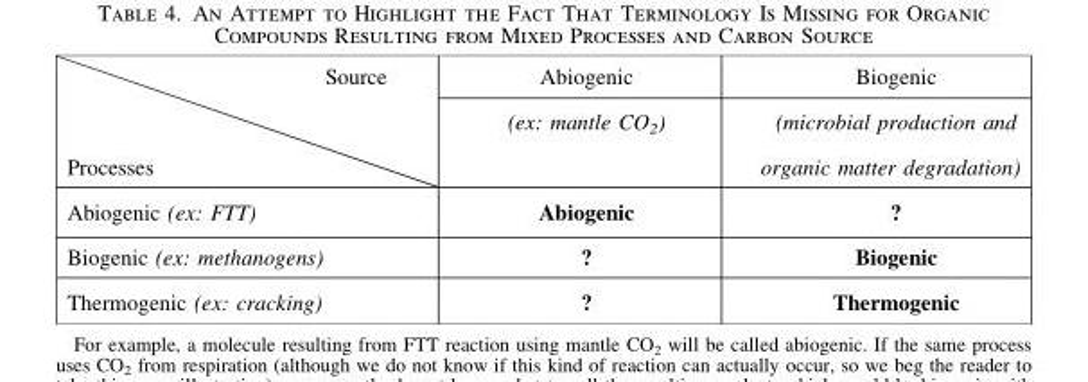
<table><tbody><tr><td>Source</td><td>Abiogenic</td><td>Biogenic</td></tr><tr><td>Processes</td><td>(ex: mantle CO<sub>2</sub>)</td><td>(microbial production and organic matter degradation)</td></tr><tr><td>Abiogenic (ex: FTT)</td><td>Abiogenic</td><td>?</td></tr><tr><td>Biogenic (ex: methanogens)</td><td>?</td><td>Biogenic</td></tr><tr><td>Thermogenic (ex: cracking)</td><td>?</td><td>Thermogenic</td></tr></tbody></table>